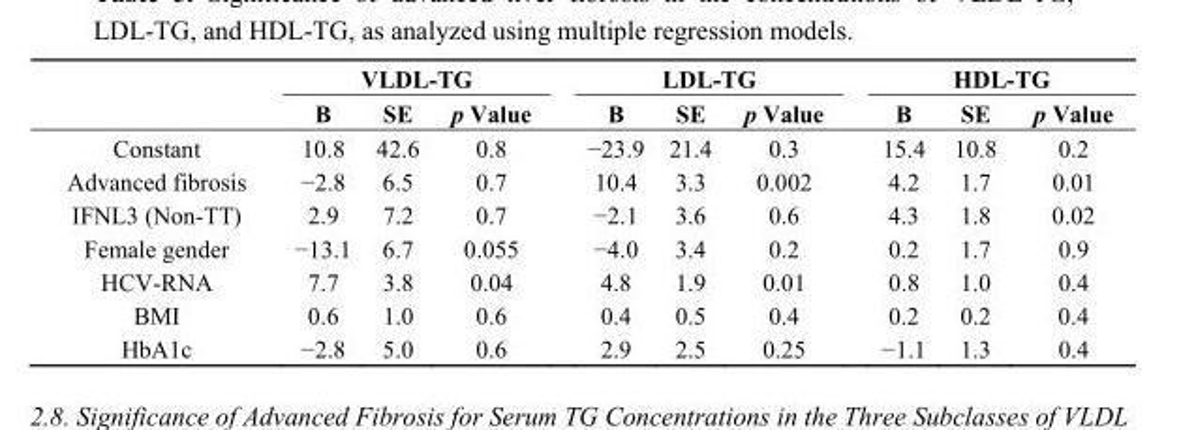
<table><thead><tr><td rowspan="2"></td><td colspan="3">VLDL-TG</td><td colspan="3">LDL-TG</td><td colspan="3">HDL-TG</td></tr><tr><td>B</td><td>SE</td><td>p Value</td><td>B</td><td>SE</td><td>p Value</td><td>B</td><td>SE</td><td>p Value</td></tr></thead><tbody><tr><td>Constant</td><td>10.8</td><td>42.6</td><td>0.8</td><td>−23.9</td><td>21.4</td><td>0.3</td><td>15.4</td><td>10.8</td><td>0.2</td></tr><tr><td>Advanced fibrosis</td><td>−2.8</td><td>6.5</td><td>0.7</td><td>10.4</td><td>3.3</td><td>0.002</td><td>4.2</td><td>1.7</td><td>0.01</td></tr><tr><td>IFNL3 (Non-TT)</td><td>2.9</td><td>7.2</td><td>0.7</td><td>−2.1</td><td>3.6</td><td>0.6</td><td>4.3</td><td>1.8</td><td>0.02</td></tr><tr><td>Female gender</td><td>−13.1</td><td>6.7</td><td>0.055</td><td>−4.0</td><td>3.4</td><td>0.2</td><td>0.2</td><td>1.7</td><td>0.9</td></tr><tr><td>HCV-RNA</td><td>7.7</td><td>3.8</td><td>0.04</td><td>4.8</td><td>1.9</td><td>0.01</td><td>0.8</td><td>1.0</td><td>0.4</td></tr><tr><td>BMI</td><td>0.6</td><td>1.0</td><td>0.6</td><td>0.4</td><td>0.5</td><td>0.4</td><td>0.2</td><td>0.2</td><td>0.4</td></tr><tr><td>HbA1c</td><td>−2.8</td><td>5.0</td><td>0.6</td><td>2.9</td><td>2.5</td><td>0.25</td><td>−1.1</td><td>1.3</td><td>0.4</td></tr></tbody></table>